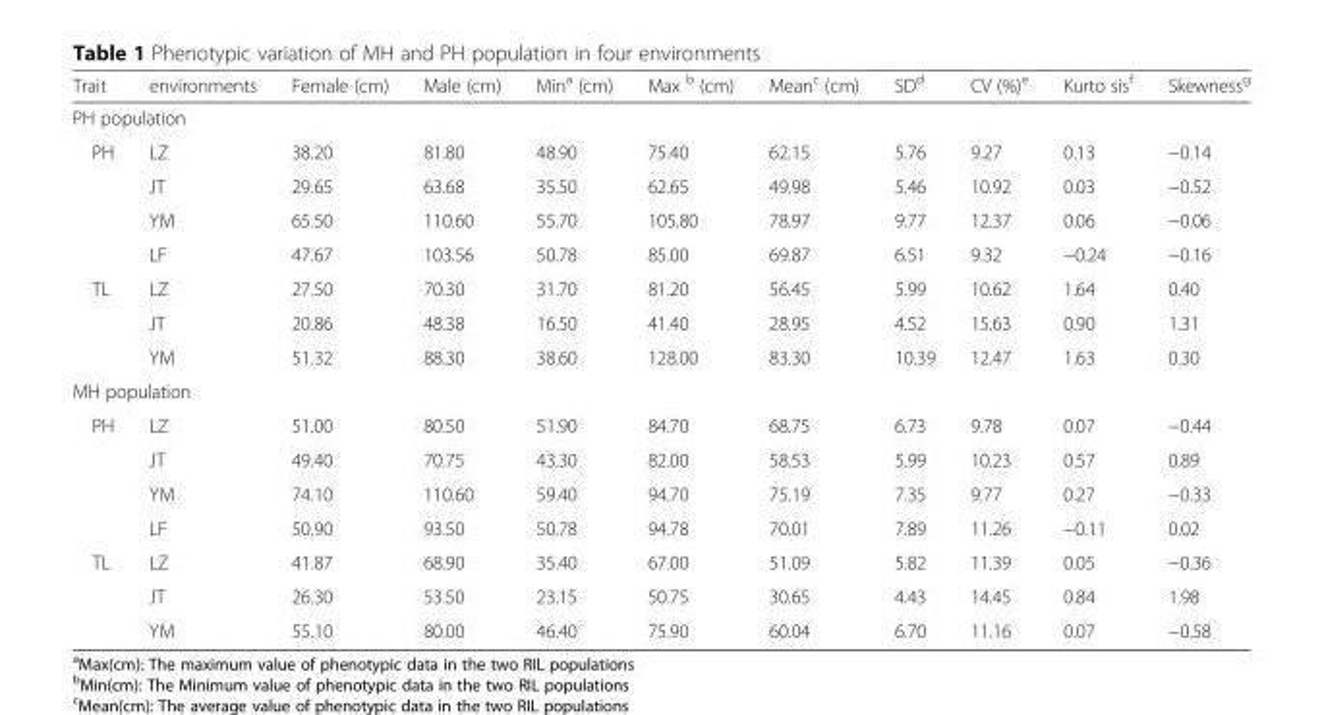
<table><thead><tr><td>Trait</td><td>environments</td><td>Female (cm)</td><td>Male (cm)</td><td>Min<sup>a</sup> (cm)</td><td>Max <sup>b</sup> (cm)</td><td>Mean<sup>c</sup> (cm)</td><td>SD<sup>d</sup></td><td>CV (%)<sup>e</sup></td><td>Kurto sis<sup>f</sup></td><td>Skewness<sup>g</sup></td></tr></thead><tbody><tr><td colspan="11">PH population</td></tr><tr><td rowspan="4">PH</td><td>LZ</td><td>38.20</td><td>81.80</td><td>48.90</td><td>75.40</td><td>62.15</td><td>5.76</td><td>9.27</td><td>0.13</td><td>−0.14</td></tr><tr><td>JT</td><td>29.65</td><td>63.68</td><td>35.50</td><td>62.65</td><td>49.98</td><td>5.46</td><td>10.92</td><td>0.03</td><td>−0.52</td></tr><tr><td>YM</td><td>65.50</td><td>110.60</td><td>55.70</td><td>105.80</td><td>78.97</td><td>9.77</td><td>12.37</td><td>0.06</td><td>−0.06</td></tr><tr><td>LF</td><td>47.67</td><td>103.56</td><td>50.78</td><td>85.00</td><td>69.87</td><td>6.51</td><td>9.32</td><td>−0.24</td><td>−0.16</td></tr><tr><td rowspan="3">TL</td><td>LZ</td><td>27.50</td><td>70.30</td><td>31.70</td><td>81.20</td><td>56.45</td><td>5.99</td><td>10.62</td><td>1.64</td><td>0.40</td></tr><tr><td>JT</td><td>20.86</td><td>48.38</td><td>16.50</td><td>41.40</td><td>28.95</td><td>4.52</td><td>15.63</td><td>0.90</td><td>1.31</td></tr><tr><td>YM</td><td>51.32</td><td>88.30</td><td>38.60</td><td>128.00</td><td>83.30</td><td>10.39</td><td>12.47</td><td>1.63</td><td>0.30</td></tr><tr><td colspan="11">MH population</td></tr><tr><td rowspan="4">PH</td><td>LZ</td><td>51.00</td><td>80.50</td><td>51.90</td><td>84.70</td><td>68.75</td><td>6.73</td><td>9.78</td><td>0.07</td><td>−0.44</td></tr><tr><td>JT</td><td>49.40</td><td>70.75</td><td>43.30</td><td>82.00</td><td>58.53</td><td>5.99</td><td>10.23</td><td>0.57</td><td>0.89</td></tr><tr><td>YM</td><td>74.10</td><td>110.60</td><td>59.40</td><td>94.70</td><td>75.19</td><td>7.35</td><td>9.77</td><td>0.27</td><td>−0.33</td></tr><tr><td>LF</td><td>50.90</td><td>93.50</td><td>50.78</td><td>94.78</td><td>70.01</td><td>7.89</td><td>11.26</td><td>−0.11</td><td>0.02</td></tr><tr><td rowspan="3">TL</td><td>LZ</td><td>41.87</td><td>68.90</td><td>35.40</td><td>67.00</td><td>51.09</td><td>5.82</td><td>11.39</td><td>0.05</td><td>−0.36</td></tr><tr><td>JT</td><td>26.30</td><td>53.50</td><td>23.15</td><td>50.75</td><td>30.65</td><td>4.43</td><td>14.45</td><td>0.84</td><td>1.98</td></tr><tr><td>YM</td><td>55.10</td><td>80.00</td><td>46.40</td><td>75.90</td><td>60.04</td><td>6.70</td><td>11.16</td><td>0.07</td><td>−0.58</td></tr></tbody></table>